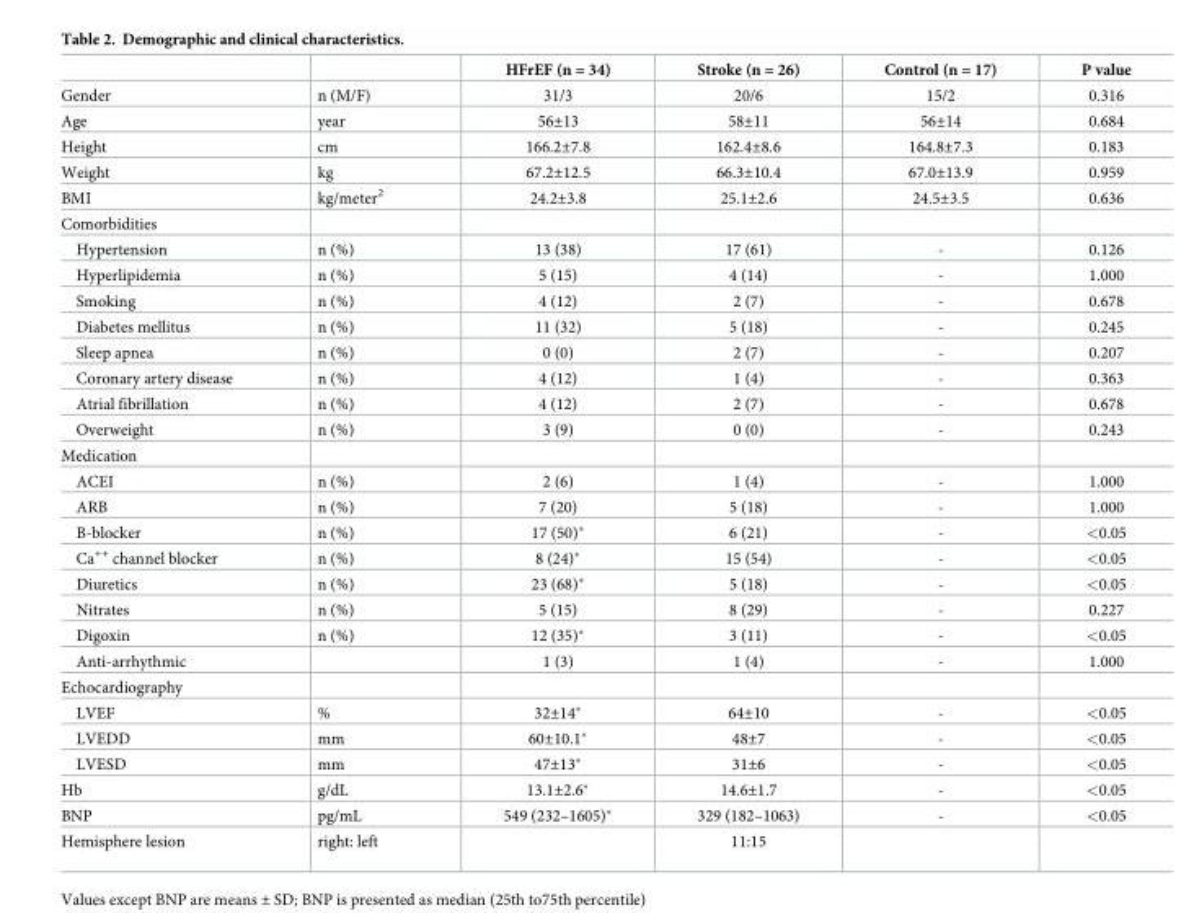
<table><thead><tr><td></td><td></td><td>HFrEF (n = 34)</td><td>Stroke (n = 26)</td><td>Control (n = 17)</td><td>P value</td></tr></thead><tbody><tr><td>Gender</td><td>n (M/F)</td><td>31/3</td><td>20/6</td><td>15/2</td><td>0.316</td></tr><tr><td>Age</td><td>year</td><td>56±13</td><td>58±11</td><td>56±14</td><td>0.684</td></tr><tr><td>Height</td><td>cm</td><td>166.2±7.8</td><td>162.4±8.6</td><td>164.8±7.3</td><td>0.183</td></tr><tr><td>Weight</td><td>kg</td><td>67.2±12.5</td><td>66.3±10.4</td><td>67.0±13.9</td><td>0.959</td></tr><tr><td>BMI</td><td>kg/meter<sup>2</sup></td><td>24.2±3.8</td><td>25.1±2.6</td><td>24.5±3.5</td><td>0.636</td></tr><tr><td colspan="6">Comorbidities</td></tr><tr><td>Hypertension</td><td>n (%)</td><td>13 (38)</td><td>17 (61)</td><td>-</td><td>0.126</td></tr><tr><td>Hyperlipidemia</td><td>n (%)</td><td>5 (15)</td><td>4 (14)</td><td>-</td><td>1.000</td></tr><tr><td>Smoking</td><td>n (%)</td><td>4 (12)</td><td>2 (7)</td><td>-</td><td>0.678</td></tr><tr><td>Diabetes mellitus</td><td>n (%)</td><td>11 (32)</td><td>5 (18)</td><td>-</td><td>0.245</td></tr><tr><td>Sleep apnea</td><td>n (%)</td><td>0 (0)</td><td>2 (7)</td><td>-</td><td>0.207</td></tr><tr><td>Coronary artery disease</td><td>n (%)</td><td>4 (12)</td><td>1 (4)</td><td>-</td><td>0.363</td></tr><tr><td>Atrial fibrillation</td><td>n (%)</td><td>4 (12)</td><td>2 (7)</td><td>-</td><td>0.678</td></tr><tr><td>Overweight</td><td>n (%)</td><td>3 (9)</td><td>0 (0)</td><td>-</td><td>0.243</td></tr><tr><td colspan="6">Medication</td></tr><tr><td>ACEI</td><td>n (%)</td><td>2 (6)</td><td>1 (4)</td><td>-</td><td>1.000</td></tr><tr><td>ARB</td><td>n (%)</td><td>7 (20)</td><td>5 (18)</td><td>-</td><td>1.000</td></tr><tr><td>B-blocker</td><td>n (%)</td><td>17 (50)*</td><td>6 (21)</td><td>-</td><td>&lt;0.05</td></tr><tr><td>Ca<sup>++</sup> channel blocker</td><td>n (%)</td><td>8 (24)*</td><td>15 (54)</td><td>-</td><td>&lt;0.05</td></tr><tr><td>Diuretics</td><td>n (%)</td><td>23 (68)*</td><td>5 (18)</td><td>-</td><td>&lt;0.05</td></tr><tr><td>Nitrates</td><td>n (%)</td><td>5 (15)</td><td>8 (29)</td><td>-</td><td>0.227</td></tr><tr><td>Digoxin</td><td>n (%)</td><td>12 (35)*</td><td>3 (11)</td><td>-</td><td>&lt;0.05</td></tr><tr><td>Anti-arrhythmic</td><td></td><td>1 (3)</td><td>1 (4)</td><td>-</td><td>1.000</td></tr><tr><td colspan="6">Echocardiography</td></tr><tr><td>LVEF</td><td>%</td><td>32±14*</td><td>64±10</td><td>-</td><td>&lt;0.05</td></tr><tr><td>LVEDD</td><td>mm</td><td>60±10.1*</td><td>48±7</td><td>-</td><td>&lt;0.05</td></tr><tr><td>LVESD</td><td>mm</td><td>47±13*</td><td>31±6</td><td>-</td><td>&lt;0.05</td></tr><tr><td>Hb</td><td>g/dL</td><td>13.1±2.6*</td><td>14.6±1.7</td><td>-</td><td>&lt;0.05</td></tr><tr><td>BNP</td><td>pg/mL</td><td>549 (232–1605)*</td><td>329 (182–1063)</td><td>-</td><td>&lt;0.05</td></tr><tr><td>Hemisphere lesion</td><td>right: left</td><td></td><td>11:15</td><td></td><td></td></tr></tbody></table>